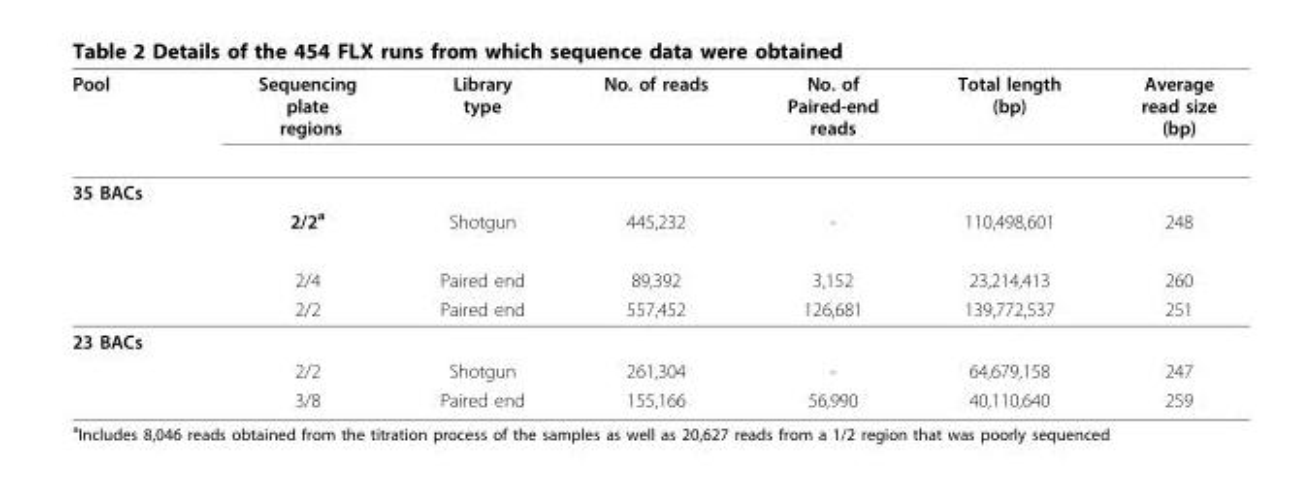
<table><thead><tr><td>Pool</td><td>Sequencing plate regions</td><td>Library type</td><td>No. of reads</td><td>No. of Paired-end reads</td><td>Total length (bp)</td><td>Average read size (bp)</td></tr></thead><tbody><tr><td colspan="7">35 BACs</td></tr><tr><td></td><td>2/2<sup>a</sup></td><td>Shotgun</td><td>445,232</td><td>-</td><td>110,498,601</td><td>248</td></tr><tr><td></td><td>2/4</td><td>Paired end</td><td>89,392</td><td>3,152</td><td>23,214,413</td><td>260</td></tr><tr><td></td><td>2/2</td><td>Paired end</td><td>557,452</td><td>126,681</td><td>139,772,537</td><td>251</td></tr><tr><td colspan="7">23 BACs</td></tr><tr><td></td><td>2/2</td><td>Shotgun</td><td>261,304</td><td>-</td><td>64,679,158</td><td>247</td></tr><tr><td></td><td>3/8</td><td>Paired end</td><td>155,166</td><td>56,990</td><td>40,110,640</td><td>259</td></tr></tbody></table>